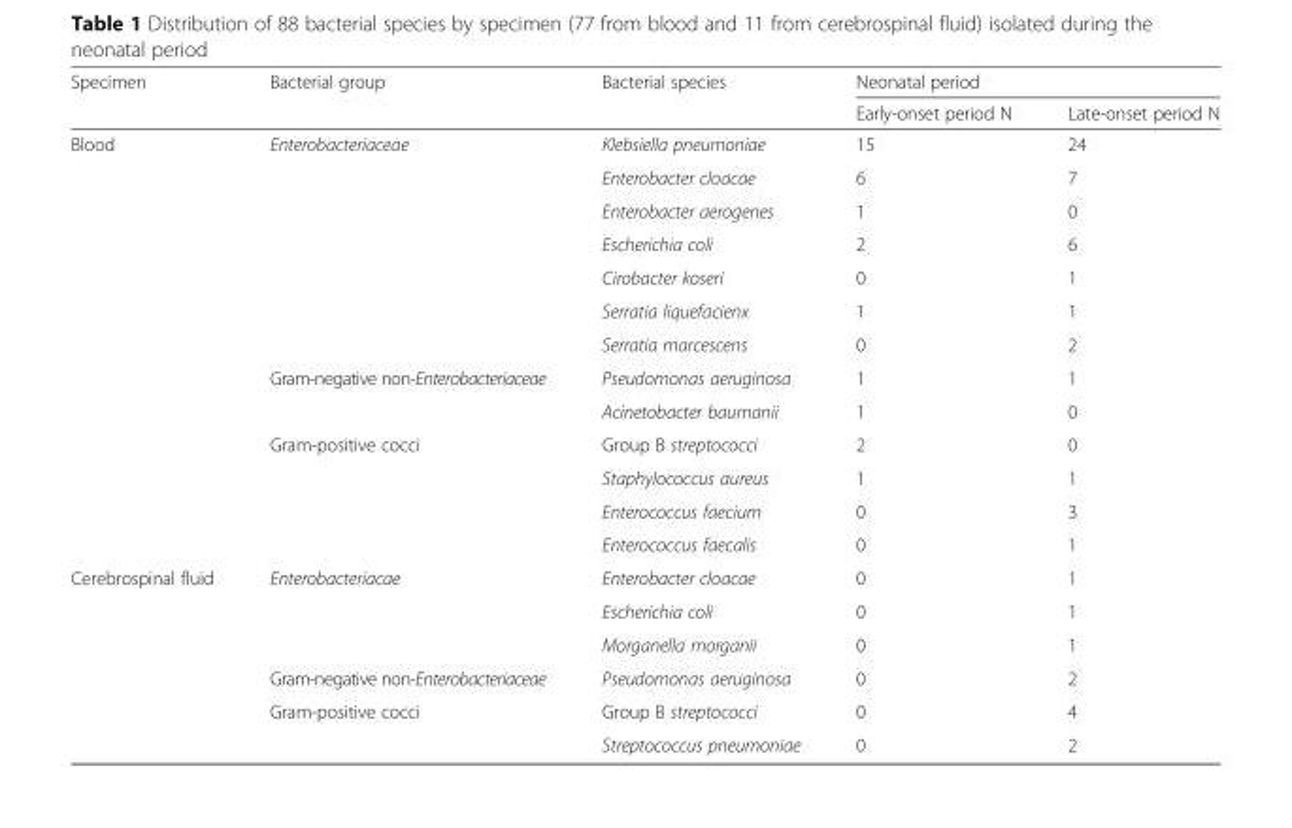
<table><thead><tr><td rowspan="2">Specimen</td><td rowspan="2">Bacterial group</td><td rowspan="2">Bacterial species</td><td colspan="2">Neonatal period</td></tr><tr><td>Early-onset period N</td><td>Late-onset period N</td></tr></thead><tbody><tr><td rowspan="13">Blood</td><td rowspan="7">Enterobacteriaceae</td><td>Klebsiella pneumoniae</td><td>15</td><td>24</td></tr><tr><td>Enterobacter cloacae</td><td>6</td><td>7</td></tr><tr><td>Enterobacter aerogenes</td><td>1</td><td>0</td></tr><tr><td>Escherichia coli</td><td>2</td><td>6</td></tr><tr><td>Cirobacter koseri</td><td>0</td><td>1</td></tr><tr><td>Serratia liquefacienx</td><td>1</td><td>1</td></tr><tr><td>Serratia marcescens</td><td>0</td><td>2</td></tr><tr><td rowspan="2">Gram-negative non-Enterobacteriaceae</td><td>Pseudomonas aeruginosa</td><td>1</td><td>1</td></tr><tr><td>Acinetobacter baumanii</td><td>1</td><td>0</td></tr><tr><td rowspan="4">Gram-positive cocci</td><td>Group B streptococci</td><td>2</td><td>0</td></tr><tr><td>Staphylococcus aureus</td><td>1</td><td>1</td></tr><tr><td>Enterococcus faecium</td><td>0</td><td>3</td></tr><tr><td>Enterococcus faecalis</td><td>0</td><td>1</td></tr><tr><td rowspan="6">Cerebrospinal fluid</td><td rowspan="3">Enterobacteriacae</td><td>Enterobacter cloacae</td><td>0</td><td>1</td></tr><tr><td>Escherichia coli</td><td>0</td><td>1</td></tr><tr><td>Morganella morganii</td><td>0</td><td>1</td></tr><tr><td>Gram-negative non-Enterobacteriaceae</td><td>Pseudomonas aeruginosa</td><td>0</td><td>2</td></tr><tr><td rowspan="2">Gram-positive cocci</td><td>Group B streptococci</td><td>0</td><td>4</td></tr><tr><td>Streptococcus pneumoniae</td><td>0</td><td>2</td></tr></tbody></table>